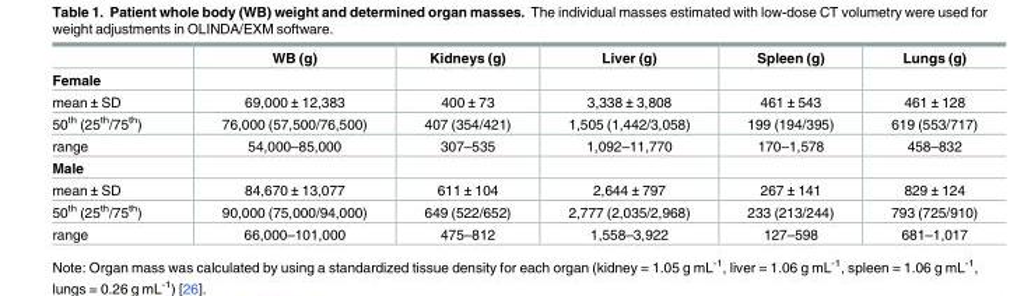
<table><thead><tr><td></td><td>WB (g)</td><td>Kidneys (g)</td><td>Liver (g)</td><td>Spleen (g)</td><td>Lungs (g)</td></tr></thead><tbody><tr><td colspan="6">Female</td></tr><tr><td>mean ± SD</td><td>69,000 ± 12,383</td><td>400 ± 73</td><td>3,338 ± 3,808</td><td>461 ± 543</td><td>461 ± 128</td></tr><tr><td>50<sup>th</sup> (25<sup>th</sup>/75<sup>th</sup>)</td><td>76,000 (57,500/76,500)</td><td>407 (354/421)</td><td>1,505 (1,442/3,058)</td><td>199 (194/395)</td><td>619 (553/717)</td></tr><tr><td>range</td><td>54,000–85,000</td><td>307–535</td><td>1,092–11,770</td><td>170–1,578</td><td>458–832</td></tr><tr><td colspan="6">Male</td></tr><tr><td>mean ± SD</td><td>84,670 ± 13,077</td><td>611 ± 104</td><td>2,644 ± 797</td><td>267 ± 141</td><td>829 ± 124</td></tr><tr><td>50<sup>th</sup> (25<sup>th</sup>/75<sup>th</sup>)</td><td>90,000 (75,000/94,000)</td><td>649 (522/652)</td><td>2,777 (2,035/2,968)</td><td>233 (213/244)</td><td>793 (725/910)</td></tr><tr><td>range</td><td>66,000–101,000</td><td>475–812</td><td>1,558–3,922</td><td>127–598</td><td>681–1,017</td></tr></tbody></table>